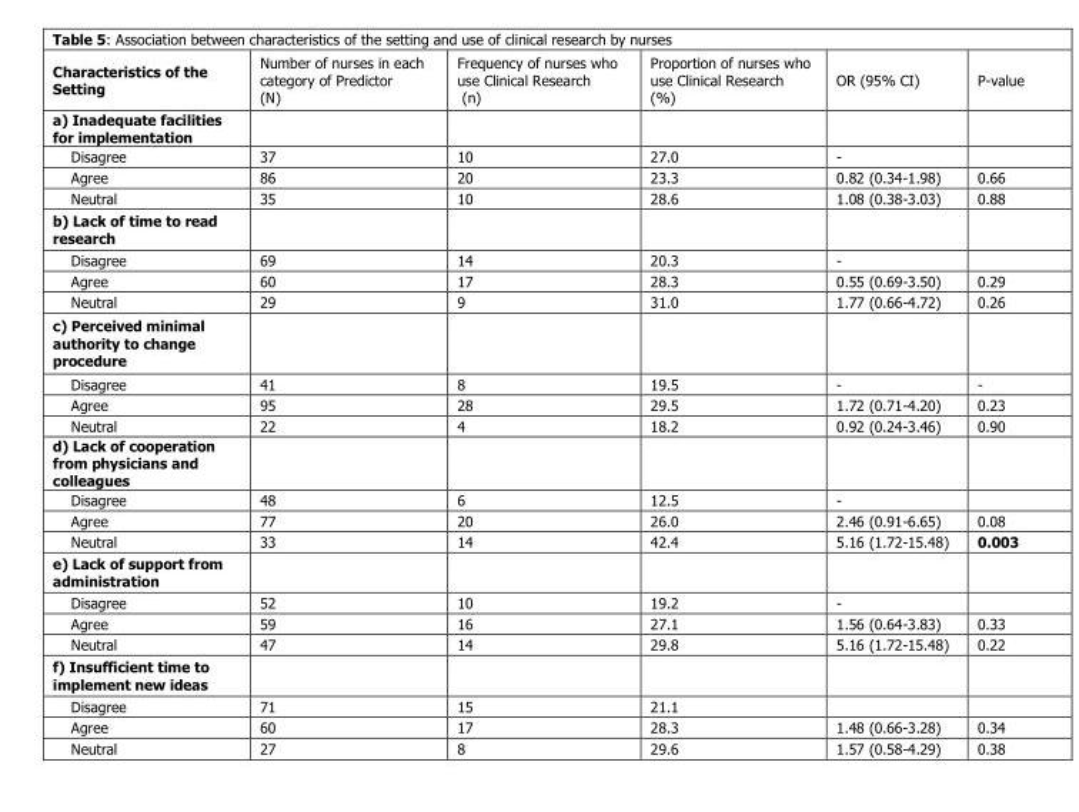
<table><thead><tr><td>Characteristics of the Setting</td><td>Number of nurses in each category of Predictor (N)</td><td>Frequency of nurses who use Clinical Research (n)</td><td>Proportion of nurses who use Clinical Research (%)</td><td>OR (95% CI)</td><td>P-value</td></tr></thead><tbody><tr><td colspan="6">a) Inadequate facilities for implementation</td></tr><tr><td>Disagree</td><td>37</td><td>10</td><td>27.0</td><td>-</td><td></td></tr><tr><td>Agree</td><td>86</td><td>20</td><td>23.3</td><td>0.82 (0.34-1.98)</td><td>0.66</td></tr><tr><td>Neutral</td><td>35</td><td>10</td><td>28.6</td><td>1.08 (0.38-3.03)</td><td>0.88</td></tr><tr><td colspan="6">b) Lack of time to read research</td></tr><tr><td>Disagree</td><td>69</td><td>14</td><td>20.3</td><td>-</td><td></td></tr><tr><td>Agree</td><td>60</td><td>17</td><td>28.3</td><td>0.55 (0.69-3.50)</td><td>0.29</td></tr><tr><td>Neutral</td><td>29</td><td>9</td><td>31.0</td><td>1.77 (0.66-4.72)</td><td>0.26</td></tr><tr><td colspan="6">c) Perceived minimal authority to change procedure</td></tr><tr><td>Disagree</td><td>41</td><td>8</td><td>19.5</td><td>-</td><td>-</td></tr><tr><td>Agree</td><td>95</td><td>28</td><td>29.5</td><td>1.72 (0.71-4.20)</td><td>0.23</td></tr><tr><td>Neutral</td><td>22</td><td>4</td><td>18.2</td><td>0.92 (0.24-3.46)</td><td>0.90</td></tr><tr><td colspan="6">d) Lack of cooperation from physicians and colleagues</td></tr><tr><td>Disagree</td><td>48</td><td>6</td><td>12.5</td><td>-</td><td></td></tr><tr><td>Agree</td><td>77</td><td>20</td><td>26.0</td><td>2.46 (0.91-6.65)</td><td>0.08</td></tr><tr><td>Neutral</td><td>33</td><td>14</td><td>42.4</td><td>5.16 (1.72-15.48)</td><td>0.003</td></tr><tr><td colspan="6">e) Lack of support from administration</td></tr><tr><td>Disagree</td><td>52</td><td>10</td><td>19.2</td><td>-</td><td></td></tr><tr><td>Agree</td><td>59</td><td>16</td><td>27.1</td><td>1.56 (0.64-3.83)</td><td>0.33</td></tr><tr><td>Neutral</td><td>47</td><td>14</td><td>29.8</td><td>5.16 (1.72-15.48)</td><td>0.22</td></tr><tr><td colspan="6">f) Insufficient time to implement new ideas</td></tr><tr><td>Disagree</td><td>71</td><td>15</td><td>21.1</td><td></td><td></td></tr><tr><td>Agree</td><td>60</td><td>17</td><td>28.3</td><td>1.48 (0.66-3.28)</td><td>0.34</td></tr><tr><td>Neutral</td><td>27</td><td>8</td><td>29.6</td><td>1.57 (0.58-4.29)</td><td>0.38</td></tr></tbody></table>